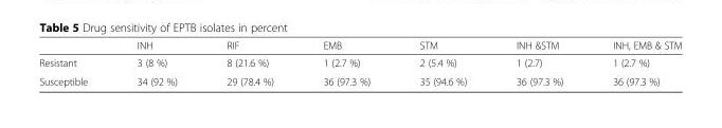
<table><thead><tr><td></td><td>INH</td><td>RIF</td><td>EMB</td><td>STM</td><td>INH &amp;STM</td><td>INH, EMB &amp; STM</td></tr></thead><tbody><tr><td>Resistant</td><td>3 (8 %)</td><td>8 (21.6 %)</td><td>1 (2.7 %)</td><td>2 (5.4 %)</td><td>1 (2.7)</td><td>1 (2.7 %)</td></tr><tr><td>Susceptible</td><td>34 (92 %)</td><td>29 (78.4 %)</td><td>36 (97.3 %)</td><td>35 (94.6 %)</td><td>36 (97.3 %)</td><td>36 (97.3 %)</td></tr></tbody></table>